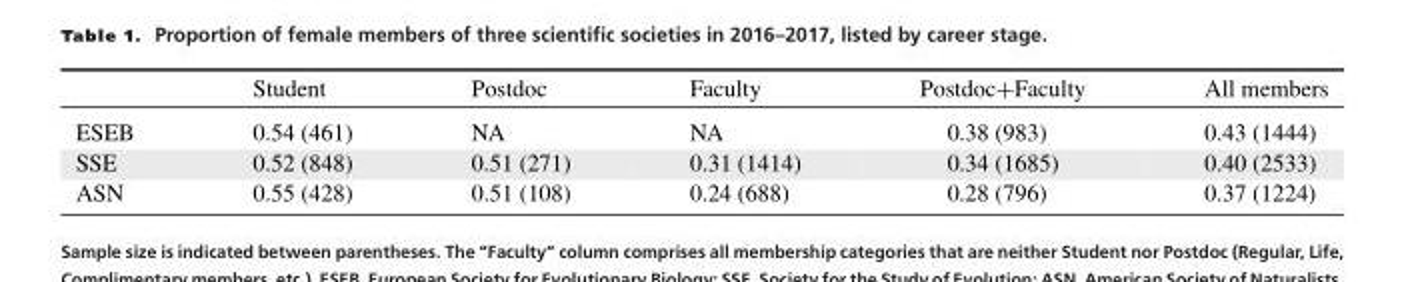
<table><thead><tr><td></td><td>Student</td><td>Postdoc</td><td>Faculty</td><td>Postdoc+Faculty</td><td>All members</td></tr></thead><tbody><tr><td>ESEB</td><td>0.54 (461)</td><td>NA</td><td>NA</td><td>0.38 (983)</td><td>0.43 (1444)</td></tr><tr><td>SSE</td><td>0.52 (848)</td><td>0.51 (271)</td><td>0.31 (1414)</td><td>0.34 (1685)</td><td>0.40 (2533)</td></tr><tr><td>ASN</td><td>0.55 (428)</td><td>0.51 (108)</td><td>0.24 (688)</td><td>0.28 (796)</td><td>0.37 (1224)</td></tr></tbody></table>